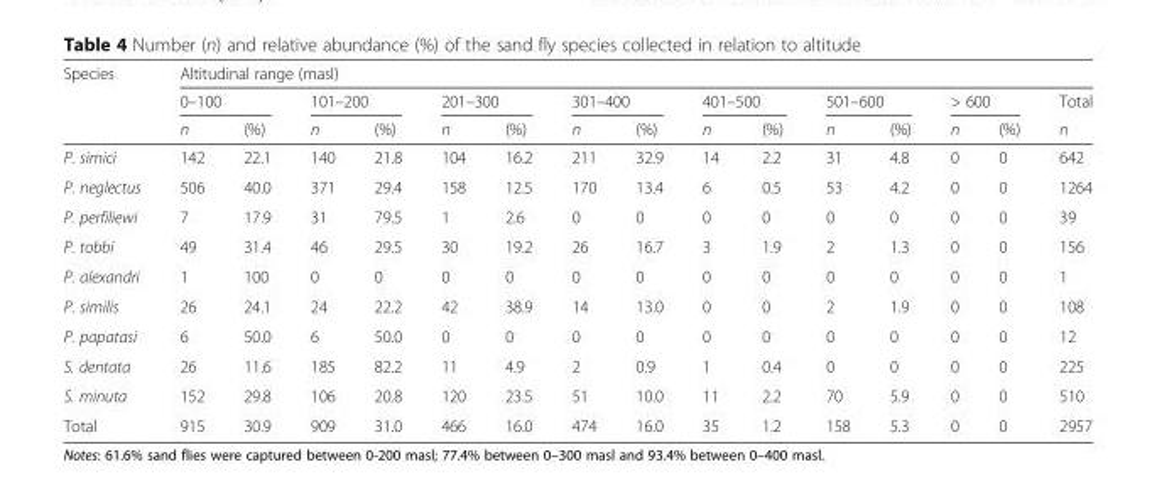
<table><thead><tr><td rowspan="3">Species</td><td colspan="15">Altitudinal range (masl)</td></tr><tr><td colspan="2">0–100</td><td colspan="2">101–200</td><td colspan="2">201–300</td><td colspan="2">301–400</td><td colspan="2">401–500</td><td colspan="2">501–600</td><td colspan="2">&gt; 600</td><td rowspan="2">Total n</td></tr><tr><td>n</td><td>(%)</td><td>n</td><td>(%)</td><td>n</td><td>(%)</td><td>n</td><td>(%)</td><td>n</td><td>(%)</td><td>n</td><td>(%)</td><td>n</td><td>(%)</td></tr></thead><tbody><tr><td>P. simici</td><td>142</td><td>22.1</td><td>140</td><td>21.8</td><td>104</td><td>16.2</td><td>211</td><td>32.9</td><td>14</td><td>2.2</td><td>31</td><td>4.8</td><td>0</td><td>0</td><td>642</td></tr><tr><td>P. neglectus</td><td>506</td><td>40.0</td><td>371</td><td>29.4</td><td>158</td><td>12.5</td><td>170</td><td>13.4</td><td>6</td><td>0.5</td><td>53</td><td>4.2</td><td>0</td><td>0</td><td>1264</td></tr><tr><td>P. perfiliewi</td><td>7</td><td>17.9</td><td>31</td><td>79.5</td><td>1</td><td>2.6</td><td>0</td><td>0</td><td>0</td><td>0</td><td>0</td><td>0</td><td>0</td><td>0</td><td>39</td></tr><tr><td>P. tobbi</td><td>49</td><td>31.4</td><td>46</td><td>29.5</td><td>30</td><td>19.2</td><td>26</td><td>16.7</td><td>3</td><td>1.9</td><td>2</td><td>1.3</td><td>0</td><td>0</td><td>156</td></tr><tr><td>P. alexandri</td><td>1</td><td>100</td><td>0</td><td>0</td><td>0</td><td>0</td><td>0</td><td>0</td><td>0</td><td>0</td><td>0</td><td>0</td><td>0</td><td>0</td><td>1</td></tr><tr><td>P. similis</td><td>26</td><td>24.1</td><td>24</td><td>22.2</td><td>42</td><td>38.9</td><td>14</td><td>13.0</td><td>0</td><td>0</td><td>2</td><td>1.9</td><td>0</td><td>0</td><td>108</td></tr><tr><td>P. papatasi</td><td>6</td><td>50.0</td><td>6</td><td>50.0</td><td>0</td><td>0</td><td>0</td><td>0</td><td>0</td><td>0</td><td>0</td><td>0</td><td>0</td><td>0</td><td>12</td></tr><tr><td>S. dentata</td><td>26</td><td>11.6</td><td>185</td><td>82.2</td><td>11</td><td>4.9</td><td>2</td><td>0.9</td><td>1</td><td>0.4</td><td>0</td><td>0</td><td>0</td><td>0</td><td>225</td></tr><tr><td>S. minuta</td><td>152</td><td>29.8</td><td>106</td><td>20.8</td><td>120</td><td>23.5</td><td>51</td><td>10.0</td><td>11</td><td>2.2</td><td>70</td><td>5.9</td><td>0</td><td>0</td><td>510</td></tr><tr><td>Total</td><td>915</td><td>30.9</td><td>909</td><td>31.0</td><td>466</td><td>16.0</td><td>474</td><td>16.0</td><td>35</td><td>1.2</td><td>158</td><td>5.3</td><td>0</td><td>0</td><td>2957</td></tr></tbody></table>